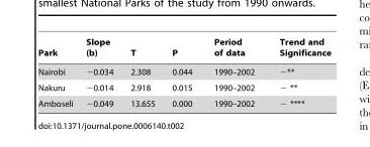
<table><thead><tr><td>Park</td><td>Slope (b)</td><td>T</td><td>P</td><td>Period of data</td><td>Trend and Significance</td></tr></thead><tbody><tr><td>Nairobi</td><td>−0.034</td><td>2.308</td><td>0.044</td><td>1990–2002</td><td>−**</td></tr><tr><td>Nakuru</td><td>−0.014</td><td>2.918</td><td>0.015</td><td>1990–2002</td><td>− **</td></tr><tr><td>Amboseli</td><td>−0.049</td><td>13.655</td><td>0.000</td><td>1990–2002</td><td>− ****</td></tr></tbody></table>